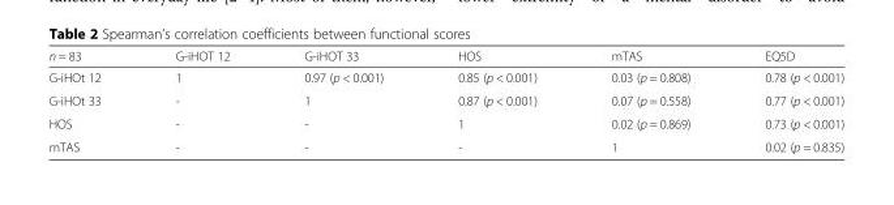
<table><thead><tr><td>n = 83</td><td>G-iHOT 12</td><td>G-iHOT 33</td><td>HOS</td><td>mTAS</td><td>EQ5D</td></tr></thead><tbody><tr><td>G-iHOt 12</td><td>1</td><td>0.97 (p &lt; 0.001)</td><td>0.85 (p &lt; 0.001)</td><td>0.03 (p = 0.808)</td><td>0.78 (p &lt; 0.001)</td></tr><tr><td>G-iHOt 33</td><td>-</td><td>1</td><td>0.87 (p &lt; 0.001)</td><td>0.07 (p = 0.558)</td><td>0.77 (p &lt; 0.001)</td></tr><tr><td>HOS</td><td>-</td><td>-</td><td>1</td><td>0.02 (p = 0.869)</td><td>0.73 (p &lt; 0.001)</td></tr><tr><td>mTAS</td><td>-</td><td>-</td><td>-</td><td>1</td><td>0.02 (p = 0.835)</td></tr></tbody></table>